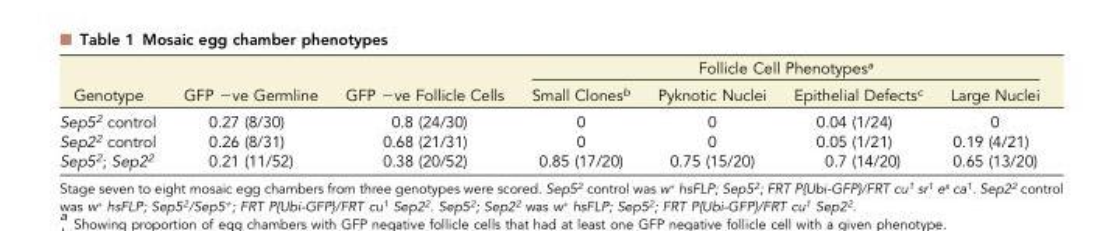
<table><thead><tr><td rowspan="2">Genotype</td><td rowspan="2">GFP −ve Germline</td><td rowspan="2">GFP −ve Follicle Cells</td><td colspan="4">Follicle Cell Phenotypes<sup>a</sup></td></tr><tr><td>Small Clones<sup>b</sup></td><td>Pyknotic Nuclei</td><td>Epithelial Defects<sup>c</sup></td><td>Large Nuclei</td></tr></thead><tbody><tr><td>Sep5<sup>2</sup> control</td><td>0.27 (8/30)</td><td>0.8 (24/30)</td><td>0</td><td>0</td><td>0.04 (1/24)</td><td>0</td></tr><tr><td>Sep2<sup>2</sup> control</td><td>0.26 (8/31)</td><td>0.68 (21/31)</td><td>0</td><td>0</td><td>0.05 (1/21)</td><td>0.19 (4/21)</td></tr><tr><td>Sep5<sup>2</sup>; Sep2<sup>2</sup></td><td>0.21 (11/52)</td><td>0.38 (20/52)</td><td>0.85 (17/20)</td><td>0.75 (15/20)</td><td>0.7 (14/20)</td><td>0.65 (13/20)</td></tr></tbody></table>